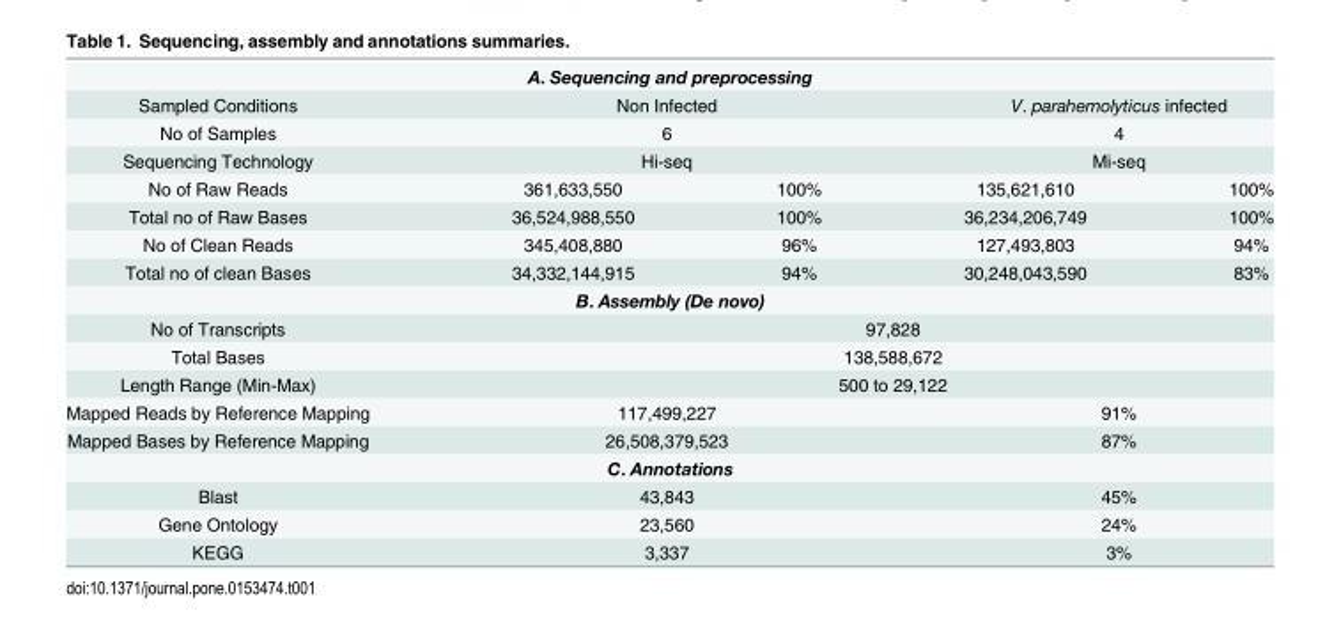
<table><tbody><tr><td colspan="5">A. Sequencing and preprocessing</td></tr><tr><td>Sampled Conditions</td><td colspan="2">Non Infected</td><td colspan="2">V. parahemolyticus infected</td></tr><tr><td>No of Samples</td><td colspan="2">6</td><td colspan="2">4</td></tr><tr><td>Sequencing Technology</td><td colspan="2">Hi-seq</td><td colspan="2">Mi-seq</td></tr><tr><td>No of Raw Reads</td><td>361,633,550</td><td>100%</td><td>135,621,610</td><td>100%</td></tr><tr><td>Total no of Raw Bases</td><td>36,524,988,550</td><td>100%</td><td>36,234,206,749</td><td>100%</td></tr><tr><td>No of Clean Reads</td><td>345,408,880</td><td>96%</td><td>127,493,803</td><td>94%</td></tr><tr><td>Total no of clean Bases</td><td>34,332,144,915</td><td>94%</td><td>30,248,043,590</td><td>83%</td></tr><tr><td colspan="5">B. Assembly (De novo)</td></tr><tr><td>No of Transcripts</td><td colspan="4">97,828</td></tr><tr><td>Total Bases</td><td colspan="4">138,588,672</td></tr><tr><td>Length Range (Min-Max)</td><td colspan="4">500 to 29,122</td></tr><tr><td>Mapped Reads by Reference Mapping</td><td colspan="2">117,499,227</td><td colspan="2">91%</td></tr><tr><td>Mapped Bases by Reference Mapping</td><td colspan="2">26,508,379,523</td><td colspan="2">87%</td></tr><tr><td colspan="5">C. Annotations</td></tr><tr><td>Blast</td><td colspan="2">43,843</td><td colspan="2">45%</td></tr><tr><td>Gene Ontology</td><td colspan="2">23,560</td><td colspan="2">24%</td></tr><tr><td>KEGG</td><td colspan="2">3,337</td><td colspan="2">3%</td></tr></tbody></table>